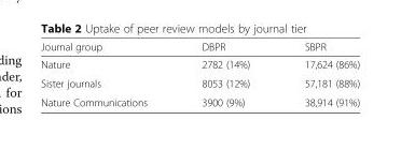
<table><thead><tr><td>Journal group</td><td>DBPR</td><td>SBPR</td></tr></thead><tbody><tr><td>Nature</td><td>2782 (14%)</td><td>17,624 (86%)</td></tr><tr><td>Sister journals</td><td>8053 (12%)</td><td>57,181 (88%)</td></tr><tr><td>Nature Communications</td><td>3900 (9%)</td><td>38,914 (91%)</td></tr></tbody></table>